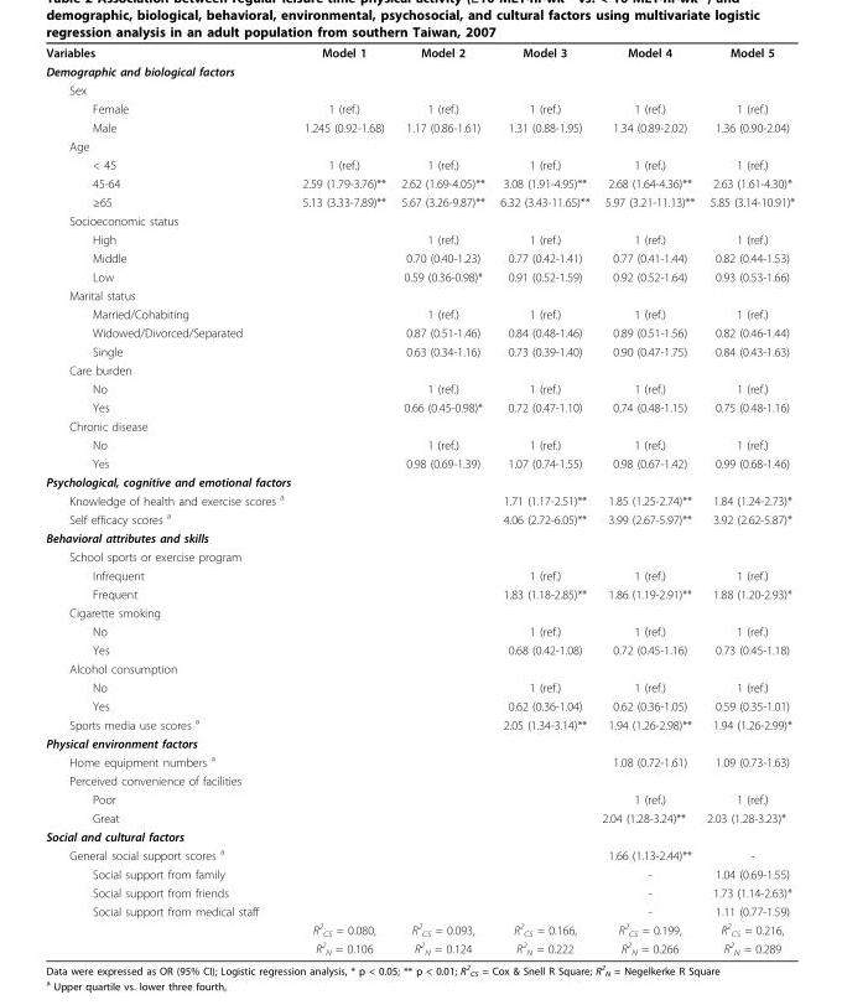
<table><tbody><tr><td>Variables</td><td>Model 1</td><td>Model 2</td><td>Model 3</td><td>Model 4</td><td>Model 5</td></tr><tr><td colspan="6">Demographic and biological factors</td></tr><tr><td colspan="6">Sex</td></tr><tr><td>Female</td><td>1 (ref.)</td><td>1 (ref.)</td><td>1 (ref.)</td><td>1 (ref.)</td><td>1 (ref.)</td></tr><tr><td>Male</td><td>1.245 (0.92-1.68)</td><td>1.17 (0.86-1.61)</td><td>1.31 (0.88-1.95)</td><td>1.34 (0.89-2.02)</td><td>1.36 (0.90-2.04)</td></tr><tr><td colspan="6">Age</td></tr><tr><td>&lt; 45</td><td>1 (ref.)</td><td>1 (ref.)</td><td>1 (ref.)</td><td>1 (ref.)</td><td>1 (ref.)</td></tr><tr><td>45-64</td><td>2.59 (1.79-3.76)**</td><td>2.62 (1.69-4.05)**</td><td>3.08 (1.91-4.95)**</td><td>2.68 (1.64-4.36)**</td><td>2.63 (1.61-4.30)*</td></tr><tr><td>≥65</td><td>5.13 (3.33-7.89)**</td><td>5.67 (3.26-9.87)**</td><td>6.32 (3.43-11.65)**</td><td>5.97 (3.21-11.13)**</td><td>5.85 (3.14-10.91)*</td></tr><tr><td colspan="6">Socioeconomic status</td></tr><tr><td>High</td><td></td><td>1 (ref.)</td><td>1 (ref.)</td><td>1 (ref.)</td><td>1 (ref.)</td></tr><tr><td>Middle</td><td></td><td>0.70 (0.40-1.23)</td><td>0.77 (0.42-1.41)</td><td>0.77 (0.41-1.44)</td><td>0.82 (0.44-1.53)</td></tr><tr><td>Low</td><td></td><td>0.59 (0.36-0.98)*</td><td>0.91 (0.52-1.59)</td><td>0.92 (0.52-1.64)</td><td>0.93 (0.53-1.66)</td></tr><tr><td colspan="6">Marital status</td></tr><tr><td>Married/Cohabiting</td><td></td><td>1 (ref.)</td><td>1 (ref.)</td><td>1 (ref.)</td><td>1 (ref.)</td></tr><tr><td>Widowed/Divorced/Separated</td><td></td><td>0.87 (0.51-1.46)</td><td>0.84 (0.48-1.46)</td><td>0.89 (0.51-1.56)</td><td>0.82 (0.46-1.44)</td></tr><tr><td>Single</td><td></td><td>0.63 (0.34-1.16)</td><td>0.73 (0.39-1.40)</td><td>0.90 (0.47-1.75)</td><td>0.84 (0.43-1.63)</td></tr><tr><td colspan="6">Care burden</td></tr><tr><td>No</td><td></td><td>1 (ref.)</td><td>1 (ref.)</td><td>1 (ref.)</td><td>1 (ref.)</td></tr><tr><td>Yes</td><td></td><td>0.66 (0.45-0.98)*</td><td>0.72 (0.47-1.10)</td><td>0.74 (0.48-1.15)</td><td>0.75 (0.48-1.16)</td></tr><tr><td colspan="6">Chronic disease</td></tr><tr><td>No</td><td></td><td>1 (ref.)</td><td>1 (ref.)</td><td>1 (ref.)</td><td>1 (ref.)</td></tr><tr><td>Yes</td><td></td><td>0.98 (0.69-1.39)</td><td>1.07 (0.74-1.55)</td><td>0.98 (0.67-1.42)</td><td>0.99 (0.68-1.46)</td></tr><tr><td colspan="6">Psychological, cognitive and emotional factors</td></tr><tr><td>Knowledge of health and exercise scores <sup>a</sup></td><td></td><td></td><td>1.71 (1.17-2.51)**</td><td>1.85 (1.25-2.74)**</td><td>1.84 (1.24-2.73)*</td></tr><tr><td>Self efficacy scores <sup>a</sup></td><td></td><td></td><td>4.06 (2.72-6.05)**</td><td>3.99 (2.67-5.97)**</td><td>3.92 (2.62-5.87)*</td></tr><tr><td colspan="6">Behavioral attributes and skills</td></tr><tr><td colspan="6">School sports or exercise program</td></tr><tr><td>Infrequent</td><td></td><td></td><td>1 (ref.)</td><td>1 (ref.)</td><td>1 (ref.)</td></tr><tr><td>Frequent</td><td></td><td></td><td>1.83 (1.18-2.85)**</td><td>1.86 (1.19-2.91)**</td><td>1.88 (1.20-2.93)*</td></tr><tr><td colspan="6">Cigarette smoking</td></tr><tr><td>No</td><td></td><td></td><td>1 (ref.)</td><td>1 (ref.)</td><td>1 (ref.)</td></tr><tr><td>Yes</td><td></td><td></td><td>0.68 (0.42-1.08)</td><td>0.72 (0.45-1.16)</td><td>0.73 (0.45-1.18)</td></tr><tr><td colspan="6">Alcohol consumption</td></tr><tr><td>No</td><td></td><td></td><td>1 (ref.)</td><td>1 (ref.)</td><td>1 (ref.)</td></tr><tr><td>Yes</td><td></td><td></td><td>0.62 (0.36-1.04)</td><td>0.62 (0.36-1.05)</td><td>0.59 (0.35-1.01)</td></tr><tr><td>Sports media use scores <sup>a</sup></td><td></td><td></td><td>2.05 (1.34-3.14)**</td><td>1.94 (1.26-2.98)**</td><td>1.94 (1.26-2.99)*</td></tr><tr><td colspan="6">Physical environment factors</td></tr><tr><td>Home equipment numbers <sup>a</sup></td><td></td><td></td><td></td><td>1.08 (0.72-1.61)</td><td>1.09 (0.73-1.63)</td></tr><tr><td colspan="6">Perceived convenience of facilities</td></tr><tr><td>Poor</td><td></td><td></td><td></td><td>1 (ref.)</td><td>1 (ref.)</td></tr><tr><td>Great</td><td></td><td></td><td></td><td>2.04 (1.28-3.24)**</td><td>2.03 (1.28-3.23)*</td></tr><tr><td colspan="6">Social and cultural factors</td></tr><tr><td>General social support scores <sup>a</sup></td><td></td><td></td><td></td><td>1.66 (1.13-2.44)**</td><td>-</td></tr><tr><td>Social support from family</td><td></td><td></td><td></td><td>-</td><td>1.04 (0.69-1.55)</td></tr><tr><td>Social support from friends</td><td></td><td></td><td></td><td>-</td><td>1.73 (1.14-2.63)*</td></tr><tr><td rowspan="3">Social support from medical staff</td><td></td><td></td><td></td><td>-</td><td>1.11 (0.77-1.59)</td></tr><tr><td>R<sup>2</sup> <sub>CS</sub> = 0.080,</td><td>R<sup>2</sup> <sub>CS</sub> = 0.093,</td><td>R<sup>2</sup> <sub>CS</sub> = 0.166,</td><td>R<sup>2</sup> <sub>CS</sub> = 0.199,</td><td>R<sup>2</sup> <sub>CS</sub> = 0.216,</td></tr><tr><td>R<sup>2</sup> <sub>N</sub> = 0.106</td><td>R<sup>2</sup> <sub>N</sub> = 0.124</td><td>R<sup>2</sup> <sub>N</sub> = 0.222</td><td>R<sup>2</sup> <sub>N</sub> = 0.266</td><td>R<sup>2</sup> <sub>N</sub> = 0.289</td></tr></tbody></table>